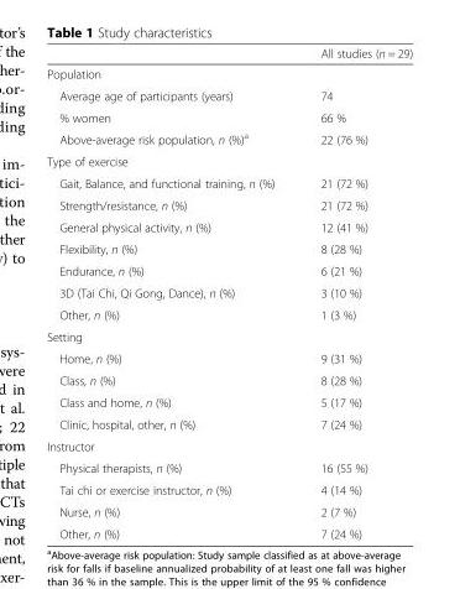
<table><thead><tr><td></td><td>All studies (n = 29)</td></tr></thead><tbody><tr><td colspan="2">Population</td></tr><tr><td>Average age of participants (years)</td><td>74</td></tr><tr><td>% women</td><td>66 %</td></tr><tr><td>Above-average risk population, n (%)<sup>a</sup></td><td>22 (76 %)</td></tr><tr><td colspan="2">Type of exercise</td></tr><tr><td>Gait, Balance, and functional training, n (%)</td><td>21 (72 %)</td></tr><tr><td>Strength/resistance, n (%)</td><td>21 (72 %)</td></tr><tr><td>General physical activity, n (%)</td><td>12 (41 %)</td></tr><tr><td>Flexibility, n (%)</td><td>8 (28 %)</td></tr><tr><td>Endurance, n (%)</td><td>6 (21 %)</td></tr><tr><td>3D (Tai Chi, Qi Gong, Dance), n (%)</td><td>3 (10 %)</td></tr><tr><td>Other, n (%)</td><td>1 (3 %)</td></tr><tr><td colspan="2">Setting</td></tr><tr><td>Home, n (%)</td><td>9 (31 %)</td></tr><tr><td>Class, n (%)</td><td>8 (28 %)</td></tr><tr><td>Class and home, n (%)</td><td>5 (17 %)</td></tr><tr><td>Clinic, hospital, other, n (%)</td><td>7 (24 %)</td></tr><tr><td colspan="2">Instructor</td></tr><tr><td>Physical therapists, n (%)</td><td>16 (55 %)</td></tr><tr><td>Tai chi or exercise instructor, n (%)</td><td>4 (14 %)</td></tr><tr><td>Nurse, n (%)</td><td>2 (7 %)</td></tr><tr><td>Other, n (%)</td><td>7 (24 %)</td></tr></tbody></table>